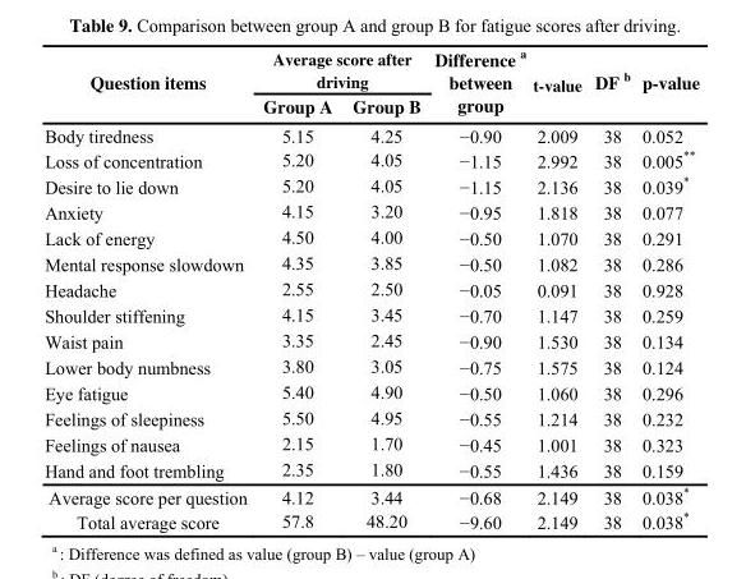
<table><thead><tr><td rowspan="2">Question items</td><td colspan="2">Average score after driving</td><td rowspan="2">Difference <sup>a</sup> between group</td><td rowspan="2">t-value</td><td rowspan="2">DF <sup>b</sup></td><td rowspan="2">p-value</td></tr><tr><td>Group A</td><td>Group B</td></tr></thead><tbody><tr><td>Body tiredness</td><td>5.15</td><td>4.25</td><td>−0.90</td><td>2.009</td><td>38</td><td>0.052</td></tr><tr><td>Loss of concentration</td><td>5.20</td><td>4.05</td><td>−1.15</td><td>2.992</td><td>38</td><td>0.005**</td></tr><tr><td>Desire to lie down</td><td>5.20</td><td>4.05</td><td>−1.15</td><td>2.136</td><td>38</td><td>0.039*</td></tr><tr><td>Anxiety</td><td>4.15</td><td>3.20</td><td>−0.95</td><td>1.818</td><td>38</td><td>0.077</td></tr><tr><td>Lack of energy</td><td>4.50</td><td>4.00</td><td>−0.50</td><td>1.070</td><td>38</td><td>0.291</td></tr><tr><td>Mental response slowdown</td><td>4.35</td><td>3.85</td><td>−0.50</td><td>1.082</td><td>38</td><td>0.286</td></tr><tr><td>Headache</td><td>2.55</td><td>2.50</td><td>−0.05</td><td>0.091</td><td>38</td><td>0.928</td></tr><tr><td>Shoulder stiffening</td><td>4.15</td><td>3.45</td><td>−0.70</td><td>1.147</td><td>38</td><td>0.259</td></tr><tr><td>Waist pain</td><td>3.35</td><td>2.45</td><td>−0.90</td><td>1.530</td><td>38</td><td>0.134</td></tr><tr><td>Lower body numbness</td><td>3.80</td><td>3.05</td><td>−0.75</td><td>1.575</td><td>38</td><td>0.124</td></tr><tr><td>Eye fatigue</td><td>5.40</td><td>4.90</td><td>−0.50</td><td>1.060</td><td>38</td><td>0.296</td></tr><tr><td>Feelings of sleepiness</td><td>5.50</td><td>4.95</td><td>−0.55</td><td>1.214</td><td>38</td><td>0.232</td></tr><tr><td>Feelings of nausea</td><td>2.15</td><td>1.70</td><td>−0.45</td><td>1.001</td><td>38</td><td>0.323</td></tr><tr><td>Hand and foot trembling</td><td>2.35</td><td>1.80</td><td>−0.55</td><td>1.436</td><td>38</td><td>0.159</td></tr><tr><td>Average score per question</td><td>4.12</td><td>3.44</td><td>−0.68</td><td>2.149</td><td>38</td><td>0.038*</td></tr><tr><td>Total average score</td><td>57.8</td><td>48.20</td><td>−9.60</td><td>2.149</td><td>38</td><td>0.038*</td></tr></tbody></table>